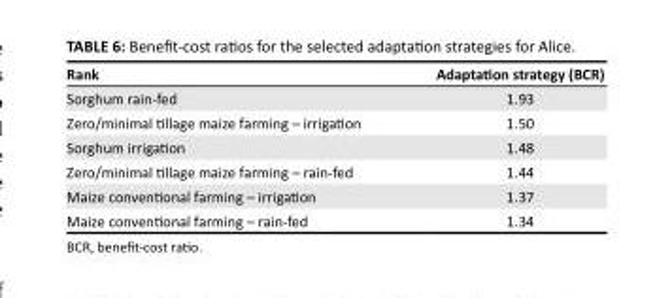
<table><thead><tr><td>Rank</td><td>Adaptation strategy (BCR)</td></tr></thead><tbody><tr><td>Sorghum rain-fed</td><td>1.93</td></tr><tr><td>Zero/minimal tillage maize farming – irrigation</td><td>1.50</td></tr><tr><td>Sorghum irrigation</td><td>1.48</td></tr><tr><td>Zero/minimal tillage maize farming – rain-fed</td><td>1.44</td></tr><tr><td>Maize conventional farming – irrigation</td><td>1.37</td></tr><tr><td>Maize conventional farming – rain-fed</td><td>1.34</td></tr></tbody></table>